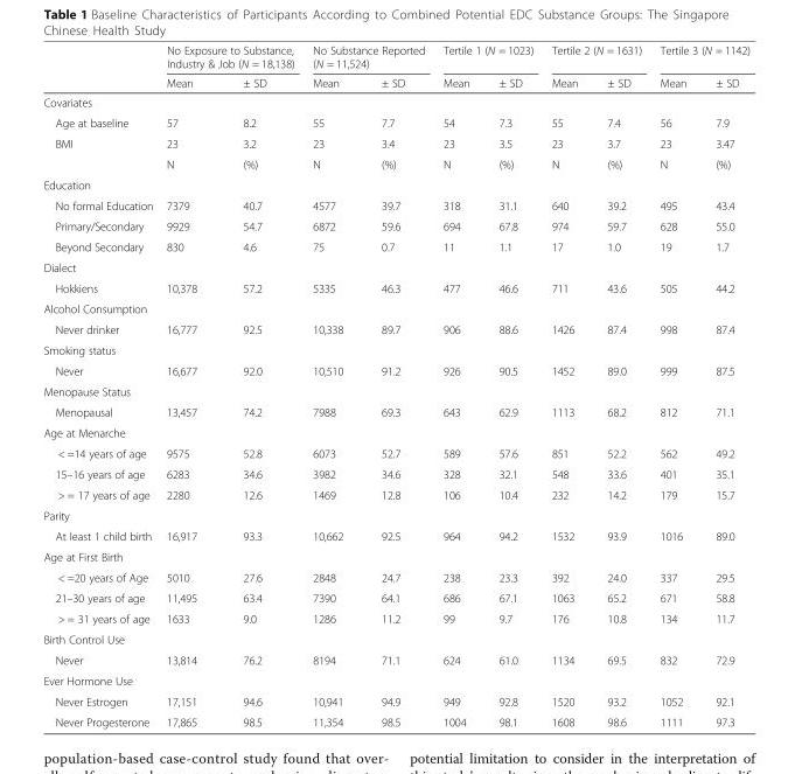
<table><thead><tr><td rowspan="2"></td><td colspan="2">No Exposure to Substance, Industry &amp; Job (N = 18,138)</td><td colspan="2">No Substance Reported (N = 11,524)</td><td colspan="2">Tertile 1 (N = 1023)</td><td colspan="2">Tertile 2 (N = 1631)</td><td colspan="2">Tertile 3 (N = 1142)</td></tr><tr><td>Mean</td><td>± SD</td><td>Mean</td><td>± SD</td><td>Mean</td><td>± SD</td><td>Mean</td><td>± SD</td><td>Mean</td><td>± SD</td></tr></thead><tbody><tr><td colspan="11">Covariates</td></tr><tr><td>Age at baseline</td><td>57</td><td>8.2</td><td>55</td><td>7.7</td><td>54</td><td>7.3</td><td>55</td><td>7.4</td><td>56</td><td>7.9</td></tr><tr><td rowspan="2">BMI</td><td>23</td><td>3.2</td><td>23</td><td>3.4</td><td>23</td><td>3.5</td><td>23</td><td>3.7</td><td>23</td><td>3.47</td></tr><tr><td>N</td><td>(%)</td><td>N</td><td>(%)</td><td>N</td><td>(%)</td><td>N</td><td>(%)</td><td>N</td><td>(%)</td></tr><tr><td colspan="11">Education</td></tr><tr><td>No formal Education</td><td>7379</td><td>40.7</td><td>4577</td><td>39.7</td><td>318</td><td>31.1</td><td>640</td><td>39.2</td><td>495</td><td>43.4</td></tr><tr><td>Primary/Secondary</td><td>9929</td><td>54.7</td><td>6872</td><td>59.6</td><td>694</td><td>67.8</td><td>974</td><td>59.7</td><td>628</td><td>55.0</td></tr><tr><td>Beyond Secondary</td><td>830</td><td>4.6</td><td>75</td><td>0.7</td><td>11</td><td>1.1</td><td>17</td><td>1.0</td><td>19</td><td>1.7</td></tr><tr><td colspan="11">Dialect</td></tr><tr><td>Hokkiens</td><td>10,378</td><td>57.2</td><td>5335</td><td>46.3</td><td>477</td><td>46.6</td><td>711</td><td>43.6</td><td>505</td><td>44.2</td></tr><tr><td colspan="11">Alcohol Consumption</td></tr><tr><td>Never drinker</td><td>16,777</td><td>92.5</td><td>10,338</td><td>89.7</td><td>906</td><td>88.6</td><td>1426</td><td>87.4</td><td>998</td><td>87.4</td></tr><tr><td colspan="11">Smoking status</td></tr><tr><td>Never</td><td>16,677</td><td>92.0</td><td>10,510</td><td>91.2</td><td>926</td><td>90.5</td><td>1452</td><td>89.0</td><td>999</td><td>87.5</td></tr><tr><td colspan="11">Menopause Status</td></tr><tr><td>Menopausal</td><td>13,457</td><td>74.2</td><td>7988</td><td>69.3</td><td>643</td><td>62.9</td><td>1113</td><td>68.2</td><td>812</td><td>71.1</td></tr><tr><td colspan="11">Age at Menarche</td></tr><tr><td>&lt; =14 years of age</td><td>9575</td><td>52.8</td><td>6073</td><td>52.7</td><td>589</td><td>57.6</td><td>851</td><td>52.2</td><td>562</td><td>49.2</td></tr><tr><td>15–16 years of age</td><td>6283</td><td>34.6</td><td>3982</td><td>34.6</td><td>328</td><td>32.1</td><td>548</td><td>33.6</td><td>401</td><td>35.1</td></tr><tr><td>&gt; = 17 years of age</td><td>2280</td><td>12.6</td><td>1469</td><td>12.8</td><td>106</td><td>10.4</td><td>232</td><td>14.2</td><td>179</td><td>15.7</td></tr><tr><td colspan="11">Parity</td></tr><tr><td>At least 1 child birth</td><td>16,917</td><td>93.3</td><td>10,662</td><td>92.5</td><td>964</td><td>94.2</td><td>1532</td><td>93.9</td><td>1016</td><td>89.0</td></tr><tr><td colspan="11">Age at First Birth</td></tr><tr><td>&lt; =20 years of Age</td><td>5010</td><td>27.6</td><td>2848</td><td>24.7</td><td>238</td><td>23.3</td><td>392</td><td>24.0</td><td>337</td><td>29.5</td></tr><tr><td>21–30 years of age</td><td>11,495</td><td>63.4</td><td>7390</td><td>64.1</td><td>686</td><td>67.1</td><td>1063</td><td>65.2</td><td>671</td><td>58.8</td></tr><tr><td>&gt; = 31 years of age</td><td>1633</td><td>9.0</td><td>1286</td><td>11.2</td><td>99</td><td>9.7</td><td>176</td><td>10.8</td><td>134</td><td>11.7</td></tr><tr><td colspan="11">Birth Control Use</td></tr><tr><td>Never</td><td>13,814</td><td>76.2</td><td>8194</td><td>71.1</td><td>624</td><td>61.0</td><td>1134</td><td>69.5</td><td>832</td><td>72.9</td></tr><tr><td colspan="11">Ever Hormone Use</td></tr><tr><td>Never Estrogen</td><td>17,151</td><td>94.6</td><td>10,941</td><td>94.9</td><td>949</td><td>92.8</td><td>1520</td><td>93.2</td><td>1052</td><td>92.1</td></tr><tr><td>Never Progesterone</td><td>17,865</td><td>98.5</td><td>11,354</td><td>98.5</td><td>1004</td><td>98.1</td><td>1608</td><td>98.6</td><td>1111</td><td>97.3</td></tr></tbody></table>